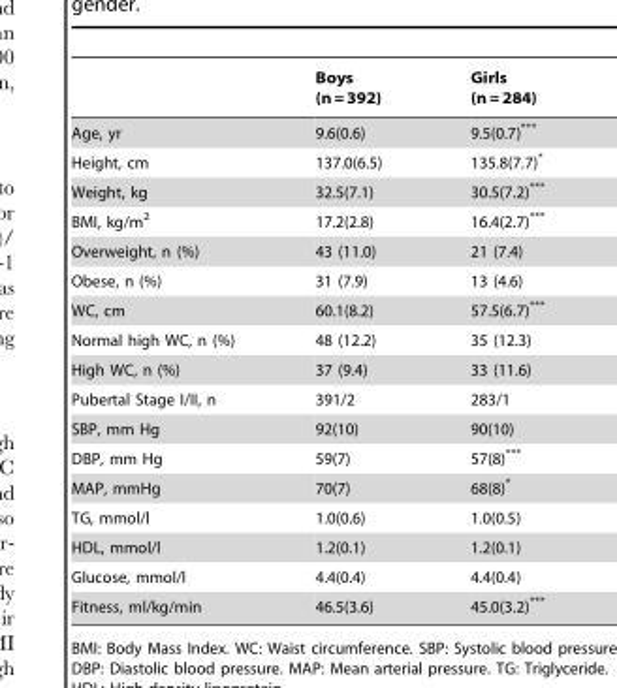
<table><thead><tr><td></td><td>Boys (n = 392)</td><td>Girls (n = 284)</td></tr></thead><tbody><tr><td>Age, yr</td><td>9.6(0.6)</td><td>9.5(0.7)***</td></tr><tr><td>Height, cm</td><td>137.0(6.5)</td><td>135.8(7.7)*</td></tr><tr><td>Weight, kg</td><td>32.5(7.1)</td><td>30.5(7.2)***</td></tr><tr><td>BMI, kg/m<sup>2</sup></td><td>17.2(2.8)</td><td>16.4(2.7)***</td></tr><tr><td>Overweight, n (%)</td><td>43 (11.0)</td><td>21 (7.4)</td></tr><tr><td>Obese, n (%)</td><td>31 (7.9)</td><td>13 (4.6)</td></tr><tr><td>WC, cm</td><td>60.1(8.2)</td><td>57.5(6.7)***</td></tr><tr><td>Normal high WC, n (%)</td><td>48 (12.2)</td><td>35 (12.3)</td></tr><tr><td>High WC, n (%)</td><td>37 (9.4)</td><td>33 (11.6)</td></tr><tr><td>Pubertal Stage I/II, n</td><td>391/2</td><td>283/1</td></tr><tr><td>SBP, mm Hg</td><td>92(10)</td><td>90(10)</td></tr><tr><td>DBP, mm Hg</td><td>59(7)</td><td>57(8)***</td></tr><tr><td>MAP, mmHg</td><td>70(7)</td><td>68(8)*</td></tr><tr><td>TG, mmol/l</td><td>1.0(0.6)</td><td>1.0(0.5)</td></tr><tr><td>HDL, mmol/l</td><td>1.2(0.1)</td><td>1.2(0.1)</td></tr><tr><td>Glucose, mmol/l</td><td>4.4(0.4)</td><td>4.4(0.4)</td></tr><tr><td>Fitness, ml/kg/min</td><td>46.5(3.6)</td><td>45.0(3.2)***</td></tr></tbody></table>